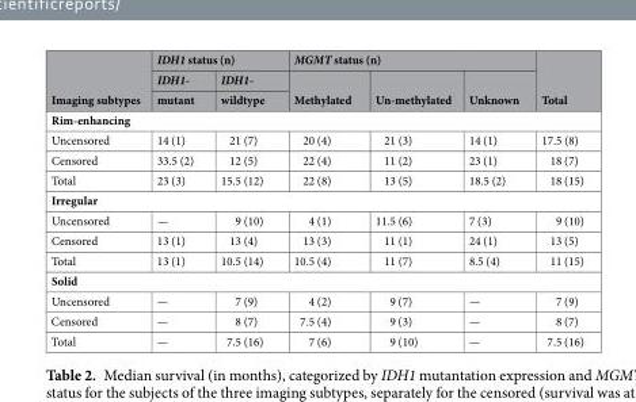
<table><thead><tr><td rowspan="3">Imaging subtypes</td><td colspan="2">IDH1 status (n)</td><td colspan="3">MGMT status (n)</td><td rowspan="3">Total</td></tr><tr><td rowspan="2">IDH1- mutant</td><td rowspan="2">IDH1- wildtype</td><td rowspan="2">Methylated</td><td rowspan="2">Un-methylated</td><td rowspan="2">Unknown</td></tr><tr></tr></thead><tbody><tr><td colspan="7">Rim-enhancing</td></tr><tr><td>Uncensored</td><td>14 (1)</td><td>21 (7)</td><td>20 (4)</td><td>21 (3)</td><td>14 (1)</td><td>17.5 (8)</td></tr><tr><td>Censored</td><td>33.5 (2)</td><td>12 (5)</td><td>22 (4)</td><td>11 (2)</td><td>23 (1)</td><td>18 (7)</td></tr><tr><td>Total</td><td>23 (3)</td><td>15.5 (12)</td><td>22 (8)</td><td>13 (5)</td><td>18.5 (2)</td><td>18 (15)</td></tr><tr><td colspan="7">Irregular</td></tr><tr><td>Uncensored</td><td>—</td><td>9 (10)</td><td>4 (1)</td><td>11.5 (6)</td><td>7 (3)</td><td>9 (10)</td></tr><tr><td>Censored</td><td>13 (1)</td><td>13 (4)</td><td>13 (3)</td><td>11 (1)</td><td>24 (1)</td><td>13 (5)</td></tr><tr><td>Total</td><td>13 (1)</td><td>10.5 (14)</td><td>10.5 (4)</td><td>11 (7)</td><td>8.5 (4)</td><td>11 (15)</td></tr><tr><td colspan="7">Solid</td></tr><tr><td>Uncensored</td><td>—</td><td>7 (9)</td><td>4 (2)</td><td>9 (7)</td><td>—</td><td>7 (9)</td></tr><tr><td>Censored</td><td>—</td><td>8 (7)</td><td>7.5 (4)</td><td>9 (3)</td><td>—</td><td>8 (7)</td></tr><tr><td>Total</td><td>—</td><td>7.5 (16)</td><td>7 (6)</td><td>9 (10)</td><td>—</td><td>7.5 (16)</td></tr></tbody></table>